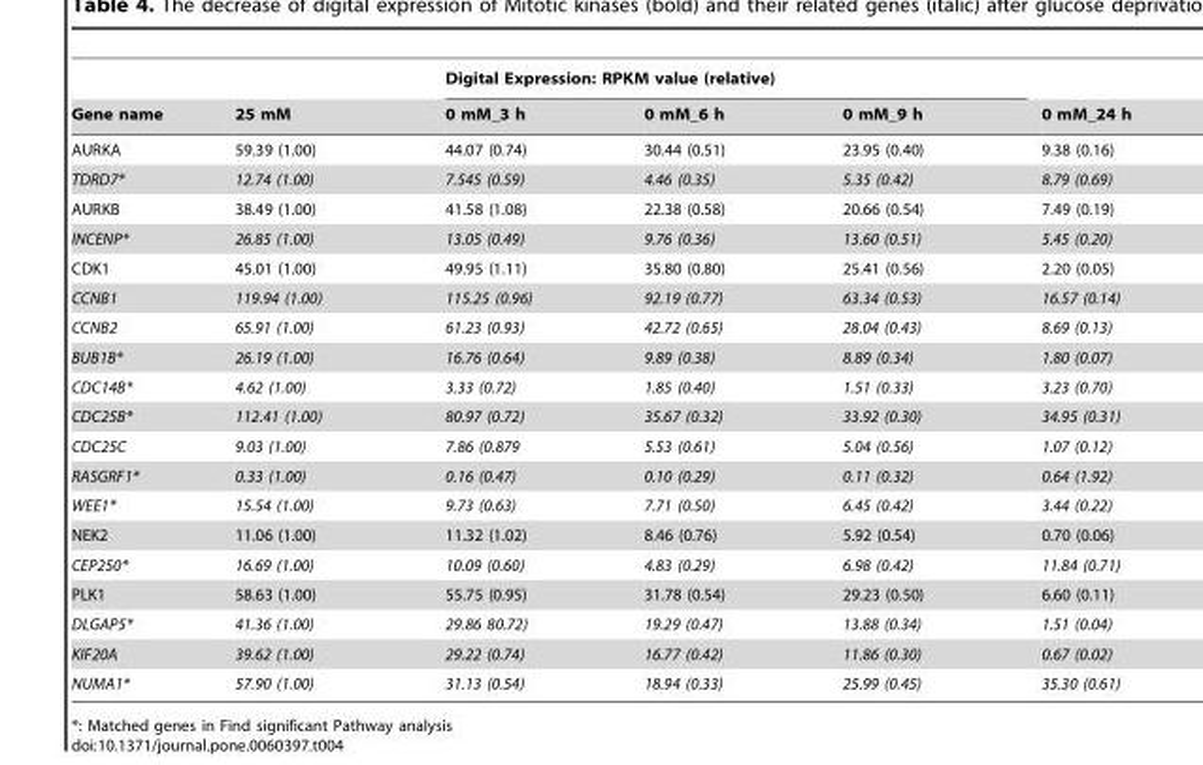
<table><thead><tr><td rowspan="2">Gene name</td><td rowspan="2">25 mM</td><td colspan="3">Digital Expression: RPKM value (relative)</td><td rowspan="2">0 mM_24 h</td></tr><tr><td>0 mM_3 h</td><td>0 mM_6 h</td><td>0 mM_9 h</td></tr></thead><tbody><tr><td>AURKA</td><td>59.39 (1.00)</td><td>44.07 (0.74)</td><td>30.44 (0.51)</td><td>23.95 (0.40)</td><td>9.38 (0.16)</td></tr><tr><td>TDRD7*</td><td>12.74 (1.00)</td><td>7.545 (0.59)</td><td>4.46 (0.35)</td><td>5.35 (0.42)</td><td>8.79 (0.69)</td></tr><tr><td>AURKB</td><td>38.49 (1.00)</td><td>41.58 (1.08)</td><td>22.38 (0.58)</td><td>20.66 (0.54)</td><td>7.49 (0.19)</td></tr><tr><td>INCENP*</td><td>26.85 (1.00)</td><td>13.05 (0.49)</td><td>9.76 (0.36)</td><td>13.60 (0.51)</td><td>5.45 (0.20)</td></tr><tr><td>CDK1</td><td>45.01 (1.00)</td><td>49.95 (1.11)</td><td>35.80 (0.80)</td><td>25.41 (0.56)</td><td>2.20 (0.05)</td></tr><tr><td>CCNB1</td><td>119.94 (1.00)</td><td>115.25 (0.96)</td><td>92.19 (0.77)</td><td>63.34 (0.53)</td><td>16.57 (0.14)</td></tr><tr><td>CCNB2</td><td>65.91 (1.00)</td><td>61.23 (0.93)</td><td>42.72 (0.65)</td><td>28.04 (0.43)</td><td>8.69 (0.13)</td></tr><tr><td>BUB1B*</td><td>26.19 (1.00)</td><td>16.76 (0.64)</td><td>9.89 (0.38)</td><td>8.89 (0.34)</td><td>1.80 (0.07)</td></tr><tr><td>CDC14B*</td><td>4.62 (1.00)</td><td>3.33 (0.72)</td><td>1.85 (0.40)</td><td>1.51 (0.33)</td><td>3.23 (0.70)</td></tr><tr><td>CDC25B*</td><td>112.41 (1.00)</td><td>80.97 (0.72)</td><td>35.67 (0.32)</td><td>33.92 (0.30)</td><td>34.95 (0.31)</td></tr><tr><td>CDC25C</td><td>9.03 (1.00)</td><td>7.86 (0.879</td><td>5.53 (0.61)</td><td>5.04 (0.56)</td><td>1.07 (0.12)</td></tr><tr><td>RASGRF1*</td><td>0.33 (1.00)</td><td>0.16 (0.47)</td><td>0.10 (0.29)</td><td>0.11 (0.32)</td><td>0.64 (1.92)</td></tr><tr><td>WEE1*</td><td>15.54 (1.00)</td><td>9.73 (0.63)</td><td>7.71 (0.50)</td><td>6.45 (0.42)</td><td>3.44 (0.22)</td></tr><tr><td>NEK2</td><td>11.06 (1.00)</td><td>11.32 (1.02)</td><td>8.46 (0.76)</td><td>5.92 (0.54)</td><td>0.70 (0.06)</td></tr><tr><td>CEP250*</td><td>16.69 (1.00)</td><td>10.09 (0.60)</td><td>4.83 (0.29)</td><td>6.98 (0.42)</td><td>11.84 (0.71)</td></tr><tr><td>PLK1</td><td>58.63 (1.00)</td><td>55.75 (0.95)</td><td>31.78 (0.54)</td><td>29.23 (0.50)</td><td>6.60 (0.11)</td></tr><tr><td>DLGAP5*</td><td>41.36 (1.00)</td><td>29.86 80.72)</td><td>19.29 (0.47)</td><td>13.88 (0.34)</td><td>1.51 (0.04)</td></tr><tr><td>KIF20A</td><td>39.62 (1.00)</td><td>29.22 (0.74)</td><td>16.77 (0.42)</td><td>11.86 (0.30)</td><td>0.67 (0.02)</td></tr><tr><td>NUMA1*</td><td>57.90 (1.00)</td><td>31.13 (0.54)</td><td>18.94 (0.33)</td><td>25.99 (0.45)</td><td>35.30 (0.61)</td></tr></tbody></table>